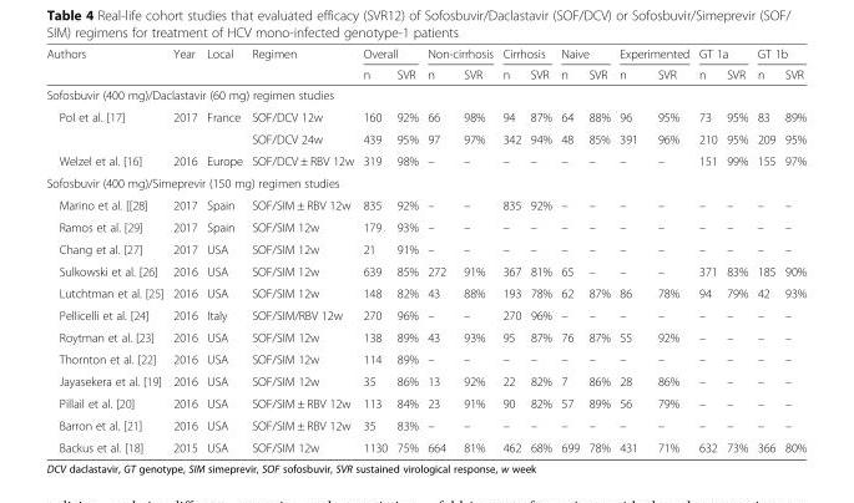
<table><thead><tr><td rowspan="2">Authors</td><td rowspan="2">Year</td><td rowspan="2">Local</td><td rowspan="2">Regimen</td><td colspan="2">Overall</td><td colspan="2">Non-cirrhosis</td><td colspan="2">Cirrhosis</td><td colspan="2">Naive</td><td colspan="2">Experimented</td><td colspan="2">GT 1a</td><td colspan="2">GT 1b</td></tr><tr><td>n</td><td>SVR</td><td>n</td><td>SVR</td><td>n</td><td>SVR</td><td>n</td><td>SVR</td><td>n</td><td>SVR</td><td>n</td><td>SVR</td><td>n</td><td>SVR</td></tr></thead><tbody><tr><td colspan="18">Sofosbuvir (400 mg)/Daclastavir (60 mg) regimen studies</td></tr><tr><td rowspan="2">Pol et al. [17]</td><td>2017</td><td>France</td><td>SOF/DCV 12w</td><td>160</td><td>92%</td><td>66</td><td>98%</td><td>94</td><td>87%</td><td>64</td><td>88%</td><td>96</td><td>95%</td><td>73</td><td>95%</td><td>83</td><td>89%</td></tr><tr><td></td><td></td><td>SOF/DCV 24w</td><td>439</td><td>95%</td><td>97</td><td>97%</td><td>342</td><td>94%</td><td>48</td><td>85%</td><td>391</td><td>96%</td><td>210</td><td>95%</td><td>209</td><td>95%</td></tr><tr><td>Welzel et al. [16]</td><td>2016</td><td>Europe</td><td>SOF/DCV ± RBV 12w</td><td>319</td><td>98%</td><td>–</td><td>–</td><td>–</td><td>–</td><td>–</td><td>–</td><td>–</td><td>–</td><td>151</td><td>99%</td><td>155</td><td>97%</td></tr><tr><td colspan="18">Sofosbuvir (400 mg)/Simeprevir (150 mg) regimen studies</td></tr><tr><td>Marino et al. [[28]</td><td>2017</td><td>Spain</td><td>SOF/SIM ± RBV 12w</td><td>835</td><td>92%</td><td>–</td><td>–</td><td>835</td><td>92%</td><td>–</td><td>–</td><td>–</td><td>–</td><td>–</td><td>–</td><td>–</td><td>–</td></tr><tr><td>Ramos et al. [29]</td><td>2017</td><td>Spain</td><td>SOF/SIM 12w</td><td>179</td><td>93%</td><td>–</td><td>–</td><td>–</td><td>–</td><td>–</td><td>–</td><td>–</td><td>–</td><td>–</td><td>–</td><td>–</td><td>–</td></tr><tr><td>Chang et al. [27]</td><td>2017</td><td>USA</td><td>SOF/SIM 12w</td><td>21</td><td>91%</td><td>–</td><td>–</td><td>–</td><td>–</td><td>–</td><td>–</td><td>–</td><td>–</td><td>–</td><td>–</td><td>–</td><td>–</td></tr><tr><td>Sulkowski et al. [26]</td><td>2016</td><td>USA</td><td>SOF/SIM 12w</td><td>639</td><td>85%</td><td>272</td><td>91%</td><td>367</td><td>81%</td><td>65</td><td>–</td><td>–</td><td>–</td><td>371</td><td>83%</td><td>185</td><td>90%</td></tr><tr><td>Lutchtman et al. [25]</td><td>2016</td><td>USA</td><td>SOF/SIM 12w</td><td>148</td><td>82%</td><td>43</td><td>88%</td><td>193</td><td>78%</td><td>62</td><td>87%</td><td>86</td><td>78%</td><td>94</td><td>79%</td><td>42</td><td>93%</td></tr><tr><td>Pellicelli et al. [24]</td><td>2016</td><td>Italy</td><td>SOF/SIM/RBV 12w</td><td>270</td><td>96%</td><td>–</td><td>–</td><td>270</td><td>96%</td><td>–</td><td>–</td><td>–</td><td>–</td><td>–</td><td>–</td><td>–</td><td>–</td></tr><tr><td>Roytman et al. [23]</td><td>2016</td><td>USA</td><td>SOF/SIM 12w</td><td>138</td><td>89%</td><td>43</td><td>93%</td><td>95</td><td>87%</td><td>76</td><td>87%</td><td>55</td><td>92%</td><td>–</td><td>–</td><td>–</td><td>–</td></tr><tr><td>Thornton et al. [22]</td><td>2016</td><td>USA</td><td>SOF/SIM 12w</td><td>114</td><td>89%</td><td>–</td><td>–</td><td>–</td><td>–</td><td>–</td><td>–</td><td>–</td><td>–</td><td>–</td><td>–</td><td>–</td><td>–</td></tr><tr><td>Jayasekera et al. [19]</td><td>2016</td><td>USA</td><td>SOF/SIM 12w</td><td>35</td><td>86%</td><td>13</td><td>92%</td><td>22</td><td>82%</td><td>7</td><td>86%</td><td>28</td><td>86%</td><td>–</td><td>–</td><td>–</td><td>–</td></tr><tr><td>Pillail et al. [20]</td><td>2016</td><td>USA</td><td>SOF/SIM ± RBV 12w</td><td>113</td><td>84%</td><td>23</td><td>91%</td><td>90</td><td>82%</td><td>57</td><td>89%</td><td>56</td><td>79%</td><td>–</td><td>–</td><td>–</td><td>–</td></tr><tr><td>Barron et al. [21]</td><td>2016</td><td>USA</td><td>SOF/SIM ± RBV 12w</td><td>35</td><td>83%</td><td>–</td><td>–</td><td>–</td><td>–</td><td>–</td><td>–</td><td>–</td><td>–</td><td>–</td><td>–</td><td>–</td><td>–</td></tr><tr><td>Backus et al. [18]</td><td>2015</td><td>USA</td><td>SOF/SIM 12w</td><td>1130</td><td>75%</td><td>664</td><td>81%</td><td>462</td><td>68%</td><td>699</td><td>78%</td><td>431</td><td>71%</td><td>632</td><td>73%</td><td>366</td><td>80%</td></tr></tbody></table>